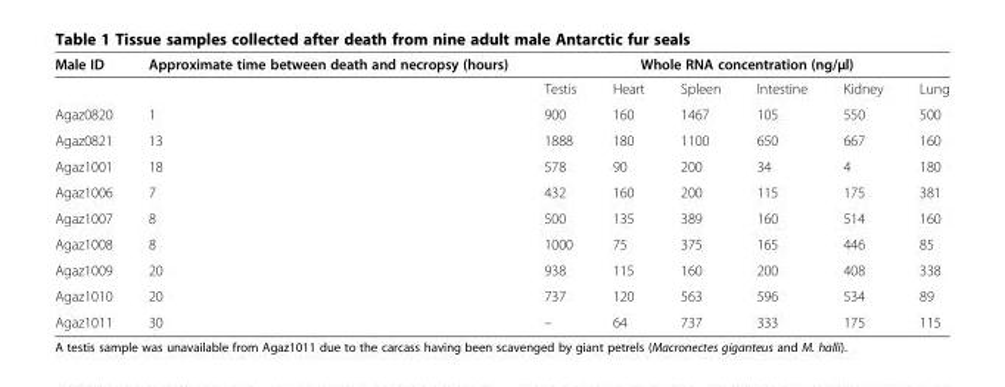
<table><thead><tr><td rowspan="2">Male ID</td><td rowspan="2">Approximate time between death and necropsy (hours)</td><td colspan="6">Whole RNA concentration (ng/μl)</td></tr><tr><td>Testis</td><td>Heart</td><td>Spleen</td><td>Intestine</td><td>Kidney</td><td>Lung</td></tr></thead><tbody><tr><td>Agaz0820</td><td>1</td><td>900</td><td>160</td><td>1467</td><td>105</td><td>550</td><td>500</td></tr><tr><td>Agaz0821</td><td>13</td><td>1888</td><td>180</td><td>1100</td><td>650</td><td>667</td><td>160</td></tr><tr><td>Agaz1001</td><td>18</td><td>578</td><td>90</td><td>200</td><td>34</td><td>4</td><td>180</td></tr><tr><td>Agaz1006</td><td>7</td><td>432</td><td>160</td><td>200</td><td>115</td><td>175</td><td>381</td></tr><tr><td>Agaz1007</td><td>8</td><td>500</td><td>135</td><td>389</td><td>160</td><td>514</td><td>160</td></tr><tr><td>Agaz1008</td><td>8</td><td>1000</td><td>75</td><td>375</td><td>165</td><td>446</td><td>85</td></tr><tr><td>Agaz1009</td><td>20</td><td>938</td><td>115</td><td>160</td><td>200</td><td>408</td><td>338</td></tr><tr><td>Agaz1010</td><td>20</td><td>737</td><td>120</td><td>563</td><td>596</td><td>534</td><td>89</td></tr><tr><td>Agaz1011</td><td>30</td><td>–</td><td>64</td><td>737</td><td>333</td><td>175</td><td>115</td></tr></tbody></table>